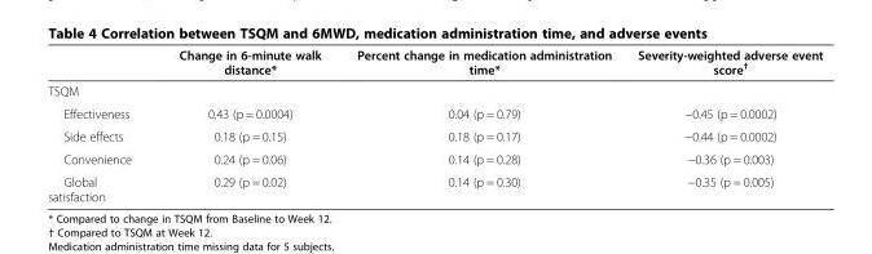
<table><thead><tr><td></td><td>Change in 6-minute walk distance*</td><td>Percent change in medication administration time*</td><td>Severity-weighted adverse event score<sup>†</sup></td></tr></thead><tbody><tr><td colspan="4">TSQM</td></tr><tr><td>Effectiveness</td><td>0.43 (p = 0.0004)</td><td>0.04 (p = 0.79)</td><td>−0.45 (p = 0.0002)</td></tr><tr><td>Side effects</td><td>0.18 (p = 0.15)</td><td>0.18 (p = 0.17)</td><td>−0.44 (p = 0.0002)</td></tr><tr><td>Convenience</td><td>0.24 (p = 0.06)</td><td>0.14 (p = 0.28)</td><td>−0.36 (p = 0.003)</td></tr><tr><td>Global satisfaction</td><td>0.29 (p = 0.02)</td><td>0.14 (p = 0.30)</td><td>−0.35 (p = 0.005)</td></tr></tbody></table>